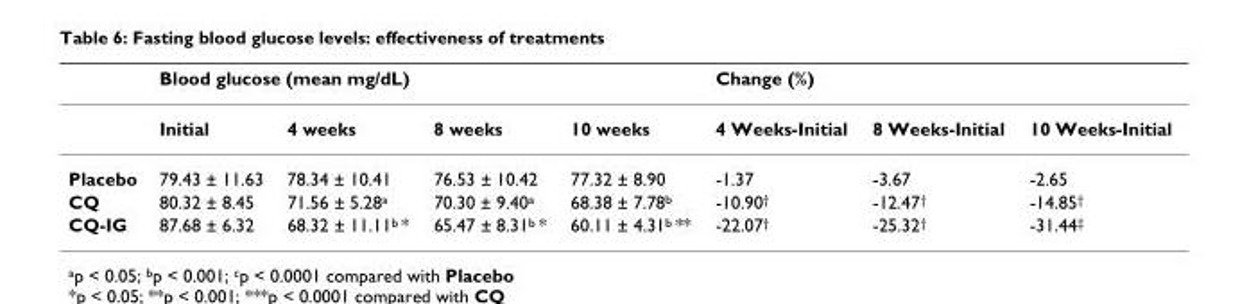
<table><thead><tr><td rowspan="2"></td><td colspan="4">Blood glucose (mean mg/dL)</td><td colspan="3">Change (%)</td></tr><tr><td>Initial</td><td>4 weeks</td><td>8 weeks</td><td>10 weeks</td><td>4 Weeks-Initial</td><td>8 Weeks-Initial</td><td>10 Weeks-Initial</td></tr></thead><tbody><tr><td>Placebo</td><td>79.43 ± 11.63</td><td>78.34 ± 10.41</td><td>76.53 ± 10.42</td><td>77.32 ± 8.90</td><td>-1.37</td><td>-3.67</td><td>-2.65</td></tr><tr><td>CQ</td><td>80.32 ± 8.45</td><td>71.56 ± 5.28<sup>a</sup></td><td>70.30 ± 9.40<sup>a</sup></td><td>68.38 ± 7.78<sup>b</sup></td><td>-10.90<sup>†</sup></td><td>-12.47<sup>†</sup></td><td>-14.85<sup>†</sup></td></tr><tr><td>CQ-IG</td><td>87.68 ± 6.32</td><td>68.32 ± 11.11<sup>b</sup> *</td><td>65.47 ± 8.31<sup>b</sup> *</td><td>60.11 ± 4.31<sup>b</sup> **</td><td>-22.07<sup>†</sup></td><td>-25.32<sup>†</sup></td><td>-31.44<sup>‡</sup></td></tr></tbody></table>